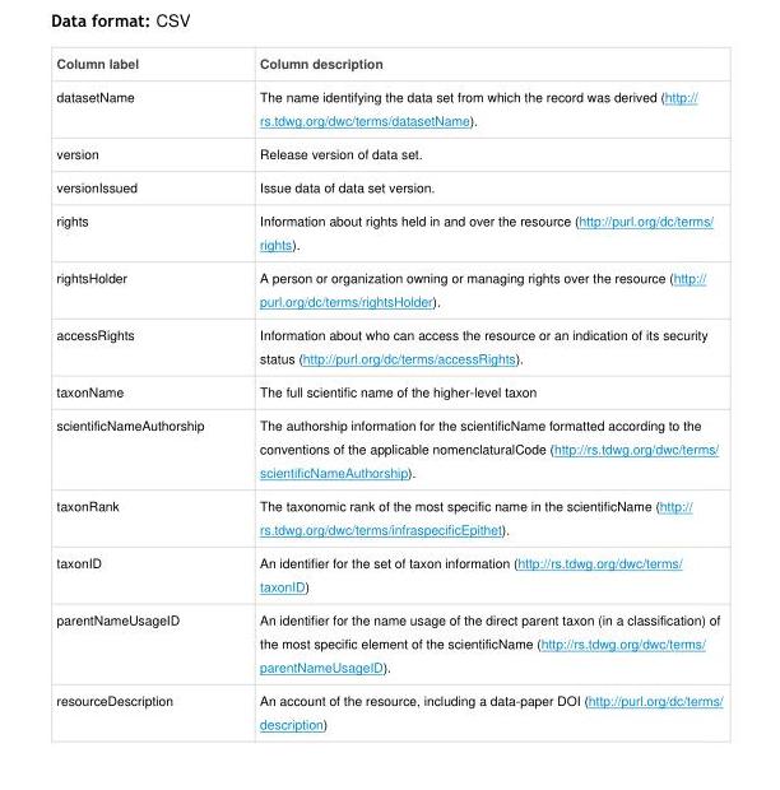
<table><thead><tr><td>Column label</td><td>Column description</td></tr></thead><tbody><tr><td>datasetName</td><td>The name identifying the data set from which the record was derived (http:// rs.tdwg.org/dwc/terms/datasetName).</td></tr><tr><td>version</td><td>Release version of data set.</td></tr><tr><td>versionIssued</td><td>Issue data of data set version.</td></tr><tr><td>rights</td><td>Information about rights held in and over the resource (http://purl.org/dc/terms/ rights).</td></tr><tr><td>rightsHolder</td><td>A person or organization owning or managing rights over the resource (http:// purl.org/dc/terms/rightsHolder).</td></tr><tr><td>accessRights</td><td>Information about who can access the resource or an indication of its security status (http://purl.org/dc/terms/accessRights).</td></tr><tr><td>taxonName</td><td>The full scientific name of the higher-level taxon</td></tr><tr><td>scientificNameAuthorship</td><td>The authorship information for the scientificName formatted according to the conventions of the applicable nomenclaturalCode (http://rs.tdwg.org/dwc/terms/ scientificNameAuthorship).</td></tr><tr><td>taxonRank</td><td>The taxonomic rank of the most specific name in the scientificName (http:// rs.tdwg.org/dwc/terms/infraspecificEpithet).</td></tr><tr><td>taxonID</td><td>An identifier for the set of taxon information (http://rs.tdwg.org/dwc/terms/ taxonID)</td></tr><tr><td>parentNameUsageID</td><td>An identifier for the name usage of the direct parent taxon (in a classification) of the most specific element of the scientificName (http://rs.tdwg.org/dwc/terms/ parentNameUsageID).</td></tr><tr><td>resourceDescription</td><td>An account of the resource, including a data-paper DOI (http://purl.org/dc/terms/ description)</td></tr></tbody></table>